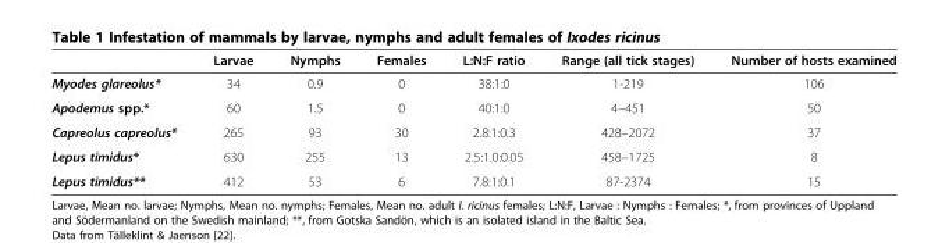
<table><thead><tr><td></td><td>Larvae</td><td>Nymphs</td><td>Females</td><td>L:N:F ratio</td><td>Range (all tick stages)</td><td>Number of hosts examined</td></tr></thead><tbody><tr><td>Myodes glareolus*</td><td>34</td><td>0.9</td><td>0</td><td>38:1:0</td><td>1-219</td><td>106</td></tr><tr><td>Apodemus spp.*</td><td>60</td><td>1.5</td><td>0</td><td>40:1:0</td><td>4–451</td><td>50</td></tr><tr><td>Capreolus capreolus*</td><td>265</td><td>93</td><td>30</td><td>2.8:1:0.3</td><td>428–2072</td><td>37</td></tr><tr><td>Lepus timidus*</td><td>630</td><td>255</td><td>13</td><td>2.5:1.0:0.05</td><td>458–1725</td><td>8</td></tr><tr><td>Lepus timidus**</td><td>412</td><td>53</td><td>6</td><td>7.8:1:0.1</td><td>87-2374</td><td>15</td></tr></tbody></table>